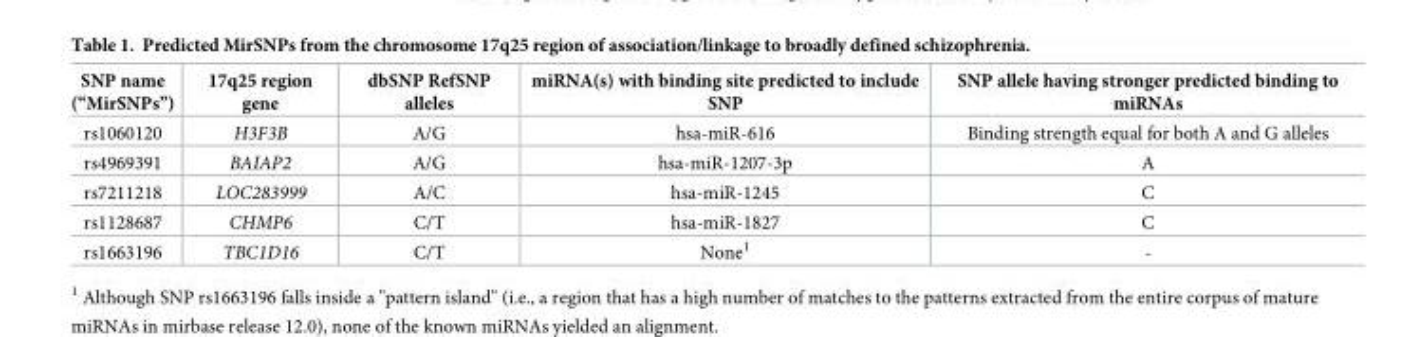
<table><thead><tr><td>SNP name (“MirSNPs”)</td><td>17q25 region gene</td><td>dbSNP RefSNP alleles</td><td>miRNA(s) with binding site predicted to include SNP</td><td>SNP allele having stronger predicted binding to miRNAs</td></tr></thead><tbody><tr><td>rs1060120</td><td>H3F3B</td><td>A/G</td><td>hsa-miR-616</td><td>Binding strength equal for both A and G alleles</td></tr><tr><td>rs4969391</td><td>BAIAP2</td><td>A/G</td><td>hsa-miR-1207-3p</td><td>A</td></tr><tr><td>rs7211218</td><td>LOC283999</td><td>A/C</td><td>hsa-miR-1245</td><td>C</td></tr><tr><td>rs1128687</td><td>CHMP6</td><td>C/T</td><td>hsa-miR-1827</td><td>C</td></tr><tr><td>rs1663196</td><td>TBC1D16</td><td>C/T</td><td>None<sup>1</sup></td><td>-</td></tr></tbody></table>